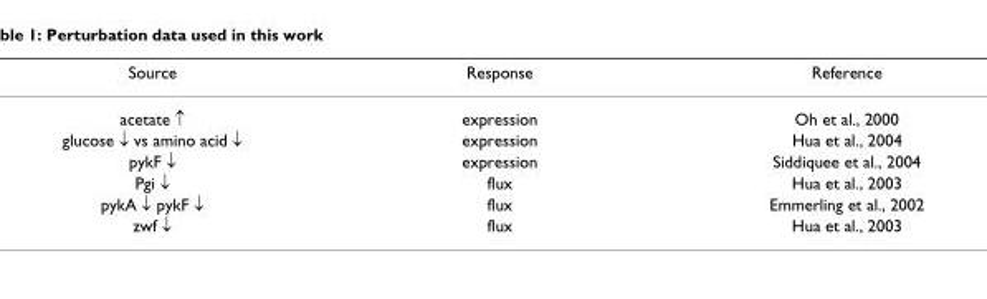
<table><thead><tr><td>Source</td><td>Response</td><td>Reference</td></tr></thead><tbody><tr><td>acetate ↑</td><td>expression</td><td>Oh et al., 2000</td></tr><tr><td>glucose ↓ vs amino acid ↓</td><td>expression</td><td>Hua et al., 2004</td></tr><tr><td>pykF ↓</td><td>expression</td><td>Siddiquee et al., 2004</td></tr><tr><td>Pgi ↓</td><td>flux</td><td>Hua et al., 2003</td></tr><tr><td>pykA ↓ pykF ↓</td><td>flux</td><td>Emmerling et al., 2002</td></tr><tr><td>zwf ↓</td><td>flux</td><td>Hua et al., 2003</td></tr></tbody></table>